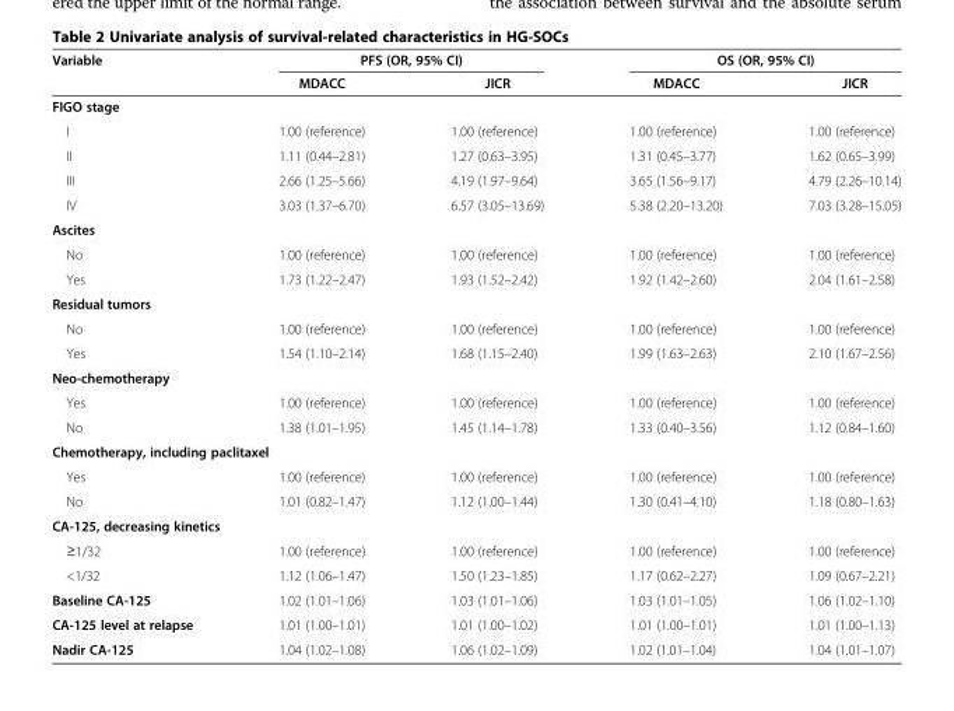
<table><thead><tr><td rowspan="2">Variable</td><td colspan="2">PFS (OR, 95% CI)</td><td colspan="2">OS (OR, 95% CI)</td></tr><tr><td>MDACC</td><td>JICR</td><td>MDACC</td><td>JICR</td></tr></thead><tbody><tr><td colspan="5">FIGO stage</td></tr><tr><td>I</td><td>1.00 (reference)</td><td>1.00 (reference)</td><td>1.00 (reference)</td><td>1.00 (reference)</td></tr><tr><td>II</td><td>1.11 (0.44–2.81)</td><td>1.27 (0.63–3.95)</td><td>1.31 (0.45–3.77)</td><td>1.62 (0.65–3.99)</td></tr><tr><td>III</td><td>2.66 (1.25–5.66)</td><td>4.19 (1.97–9.64)</td><td>3.65 (1.56–9.17)</td><td>4.79 (2.26–10.14)</td></tr><tr><td>IV</td><td>3.03 (1.37–6.70)</td><td>6.57 (3.05–13.69)</td><td>5.38 (2.20–13.20)</td><td>7.03 (3.28–15.05)</td></tr><tr><td colspan="5">Ascites</td></tr><tr><td>No</td><td>1.00 (reference)</td><td>1.00 (reference)</td><td>1.00 (reference)</td><td>1.00 (reference)</td></tr><tr><td>Yes</td><td>1.73 (1.22–2.47)</td><td>1.93 (1.52–2.42)</td><td>1.92 (1.42–2.60)</td><td>2.04 (1.61–2.58)</td></tr><tr><td colspan="5">Residual tumors</td></tr><tr><td>No</td><td>1.00 (reference)</td><td>1.00 (reference)</td><td>1.00 (reference)</td><td>1.00 (reference)</td></tr><tr><td>Yes</td><td>1.54 (1.10–2.14)</td><td>1.68 (1.15–2.40)</td><td>1.99 (1.63–2.63)</td><td>2.10 (1.67–2.56)</td></tr><tr><td colspan="5">Neo-chemotherapy</td></tr><tr><td>Yes</td><td>1.00 (reference)</td><td>1.00 (reference)</td><td>1.00 (reference)</td><td>1.00 (reference)</td></tr><tr><td>No</td><td>1.38 (1.01–1.95)</td><td>1.45 (1.14–1.78)</td><td>1.33 (0.40–3.56)</td><td>1.12 (0.84–1.60)</td></tr><tr><td colspan="5">Chemotherapy, including paclitaxel</td></tr><tr><td>Yes</td><td>1.00 (reference)</td><td>1.00 (reference)</td><td>1.00 (reference)</td><td>1.00 (reference)</td></tr><tr><td>No</td><td>1.01 (0.82–1.47)</td><td>1.12 (1.00–1.44)</td><td>1.30 (0.41–4.10)</td><td>1.18 (0.80–1.63)</td></tr><tr><td colspan="5">CA-125, decreasing kinetics</td></tr><tr><td>≥1/32</td><td>1.00 (reference)</td><td>1.00 (reference)</td><td>1.00 (reference)</td><td>1.00 (reference)</td></tr><tr><td>&lt;1/32</td><td>1.12 (1.06–1.47)</td><td>1.50 (1.23–1.85)</td><td>1.17 (0.62–2.27)</td><td>1.09 (0.67–2.21)</td></tr><tr><td>Baseline CA-125</td><td>1.02 (1.01–1.06)</td><td>1.03 (1.01–1.06)</td><td>1.03 (1.01–1.05)</td><td>1.06 (1.02–1.10)</td></tr><tr><td>CA-125 level at relapse</td><td>1.01 (1.00–1.01)</td><td>1.01 (1.00–1.02)</td><td>1.01 (1.00–1.01)</td><td>1.01 (1.00–1.13)</td></tr><tr><td>Nadir CA-125</td><td>1.04 (1.02–1.08)</td><td>1.06 (1.02–1.09)</td><td>1.02 (1.01–1.04)</td><td>1.04 (1.01–1.07)</td></tr></tbody></table>